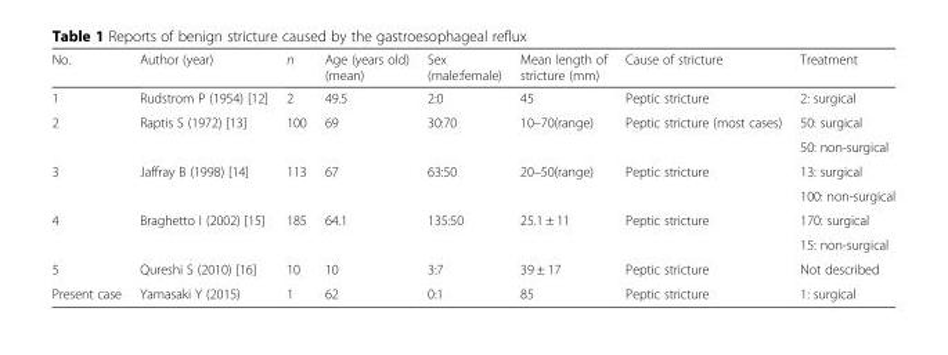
<table><thead><tr><td>No.</td><td>Author (year)</td><td>n</td><td>Age (years old) (mean)</td><td>Sex (male:female)</td><td>Mean length of stricture (mm)</td><td>Cause of stricture</td><td>Treatment</td></tr></thead><tbody><tr><td>1</td><td>Rudstrom P (1954) [12]</td><td>2</td><td>49.5</td><td>2:0</td><td>45</td><td>Peptic stricture</td><td>2: surgical</td></tr><tr><td rowspan="2">2</td><td rowspan="2">Raptis S (1972) [13]</td><td rowspan="2">100</td><td rowspan="2">69</td><td rowspan="2">30:70</td><td rowspan="2">10–70(range)</td><td rowspan="2">Peptic stricture (most cases)</td><td>50: surgical</td></tr><tr><td>50: non-surgical</td></tr><tr><td rowspan="2">3</td><td rowspan="2">Jaffray B (1998) [14]</td><td rowspan="2">113</td><td rowspan="2">67</td><td rowspan="2">63:50</td><td rowspan="2">20–50(range)</td><td rowspan="2">Peptic stricture</td><td>13: surgical</td></tr><tr><td>100: non-surgical</td></tr><tr><td rowspan="2">4</td><td rowspan="2">Braghetto I (2002) [15]</td><td rowspan="2">185</td><td rowspan="2">64.1</td><td rowspan="2">135:50</td><td rowspan="2">25.1 ± 11</td><td rowspan="2">Peptic stricture</td><td>170: surgical</td></tr><tr><td>15: non-surgical</td></tr><tr><td>5</td><td>Qureshi S (2010) [16]</td><td>10</td><td>10</td><td>3:7</td><td>39 ± 17</td><td>Peptic stricture</td><td>Not described</td></tr><tr><td>Present case</td><td>Yamasaki Y (2015)</td><td>1</td><td>62</td><td>0:1</td><td>85</td><td>Peptic stricture</td><td>1: surgical</td></tr></tbody></table>